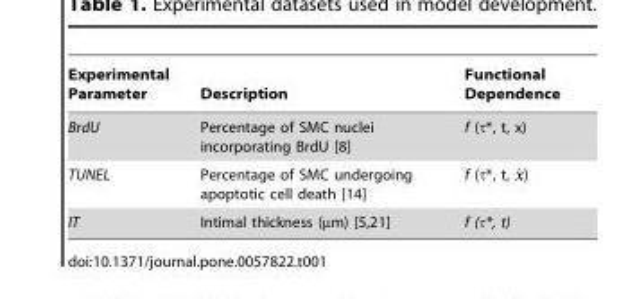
<table><thead><tr><td>Experimental Parameter</td><td>Description</td><td>Functional Dependence</td></tr></thead><tbody><tr><td>BrdU</td><td>Percentage of SMC nuclei incorporating BrdU [8]</td><td>f (τ*, t, x)</td></tr><tr><td>TUNEL</td><td>Percentage of SMC undergoing apoptotic cell death [14]</td><td>f (t*, t, ^x)</td></tr><tr><td>IT</td><td>Intimal thickness (mm) [5,21]</td><td>f (τ*, t)</td></tr></tbody></table>